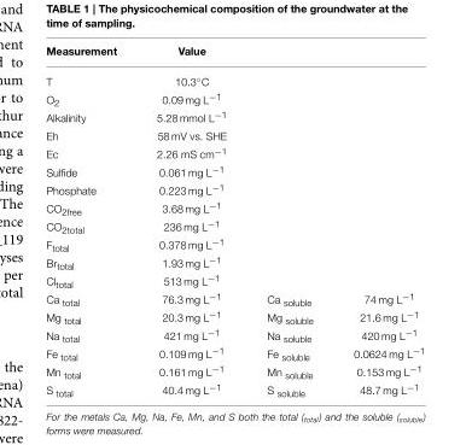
<table><thead><tr><td>Measurement</td><td>Value</td><td></td><td></td></tr></thead><tbody><tr><td>T</td><td>10.3◦C</td><td></td><td></td></tr><tr><td>O<sub>2</sub></td><td>0.09 mg L<sup>−1</sup></td><td></td><td></td></tr><tr><td>Alkalinity</td><td>5.28 mmol L<sup>−1</sup></td><td></td><td></td></tr><tr><td>Eh</td><td>58 mV vs. SHE</td><td></td><td></td></tr><tr><td>Ec</td><td>2.26 mS cm<sup>−1</sup></td><td></td><td></td></tr><tr><td>Sulfide</td><td>0.061 mg L<sup>−1</sup></td><td></td><td></td></tr><tr><td>Phosphate</td><td>0.223 mg L<sup>−1</sup></td><td></td><td></td></tr><tr><td>CO<sub>2free</sub></td><td>3.68 mg L<sup>−1</sup></td><td></td><td></td></tr><tr><td>CO<sub>2total</sub></td><td>236 mg L<sup>−1</sup></td><td></td><td></td></tr><tr><td>F<sub>total</sub></td><td>0.378 mg L<sup>−1</sup></td><td></td><td></td></tr><tr><td>Br<sub>total</sub></td><td>1.93 mg L<sup>−1</sup></td><td></td><td></td></tr><tr><td>Cl<sub>total</sub></td><td>513 mg L<sup>−1</sup></td><td></td><td></td></tr><tr><td>Ca <sub>total</sub></td><td>76.3 mg L<sup>−1</sup></td><td>Ca <sub>soluble</sub></td><td>74 mg L<sup>−1</sup></td></tr><tr><td>Mg <sub>total</sub></td><td>20.3 mg L<sup>−1</sup></td><td>Mg <sub>soluble</sub></td><td>21.6 mg L<sup>−1</sup></td></tr><tr><td>Na <sub>total</sub></td><td>421 mg L<sup>−1</sup></td><td>Na <sub>soluble</sub></td><td>420 mg L<sup>−1</sup></td></tr><tr><td>Fe <sub>total</sub></td><td>0.109 mg L<sup>−1</sup></td><td>Fe <sub>soluble</sub></td><td>0.0624 mg L<sup>−1</sup></td></tr><tr><td>Mn <sub>total</sub></td><td>0.161 mg L<sup>−1</sup></td><td>Mn <sub>soluble</sub></td><td>0.153 mg L<sup>−1</sup></td></tr><tr><td>S <sub>total</sub></td><td>40.4 mg L<sup>−1</sup></td><td>S <sub>soluble</sub></td><td>48.7 mg L<sup>−1</sup></td></tr></tbody></table>